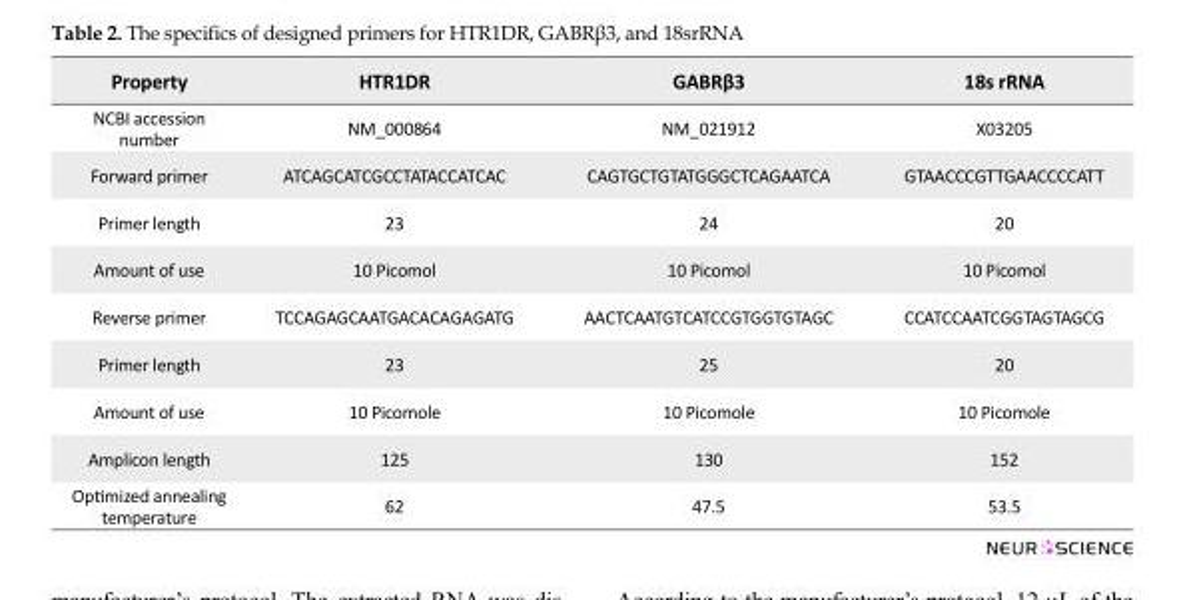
<table><thead><tr><td>Property</td><td>HTR1DR</td><td>GABRβ3</td><td>18s rRNA</td></tr></thead><tbody><tr><td>NCBI accession number</td><td>NM_000864</td><td>NM_021912</td><td>X03205</td></tr><tr><td>Forward primer</td><td>ATCAGCATCGCCTATACCATCAC</td><td>CAGTGCTGTATGGGCTCAGAATCA</td><td>GTAACCCGTTGAACCCCATT</td></tr><tr><td>Primer length</td><td>23</td><td>24</td><td>20</td></tr><tr><td>Amount of use</td><td>10 Picomol</td><td>10 Picomol</td><td>10 Picomol</td></tr><tr><td>Reverse primer</td><td>TCCAGAGCAATGACACAGAGATG</td><td>AACTCAATGTCATCCGTGGTGTAGC</td><td>CCATCCAATCGGTAGTAGCG</td></tr><tr><td>Primer length</td><td>23</td><td>25</td><td>20</td></tr><tr><td>Amount of use</td><td>10 Picomole</td><td>10 Picomole</td><td>10 Picomole</td></tr><tr><td>Amplicon length</td><td>125</td><td>130</td><td>152</td></tr><tr><td>Optimized annealing temperature</td><td>62</td><td>47.5</td><td>53.5</td></tr></tbody></table>